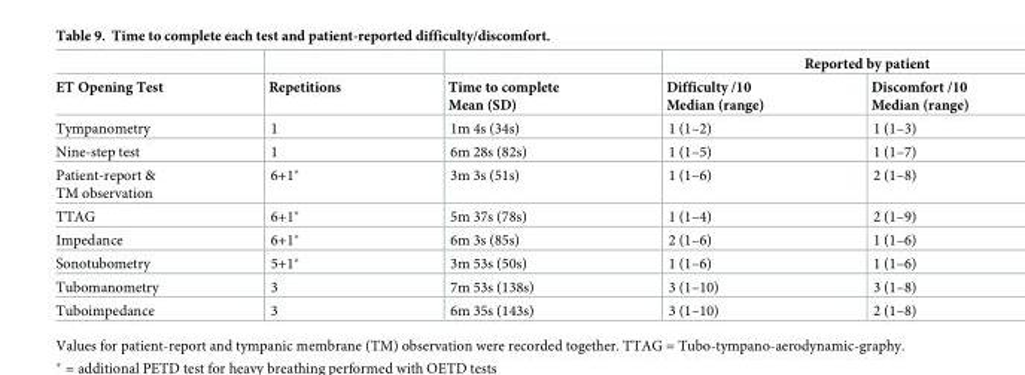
<table><thead><tr><td rowspan="2">ET Opening Test</td><td rowspan="2">Repetitions</td><td rowspan="2">Time to complete Mean (SD)</td><td colspan="2">Reported by patient</td></tr><tr><td>Difficulty /10 Median (range)</td><td>Discomfort /10 Median (range)</td></tr></thead><tbody><tr><td>Tympanometry</td><td>1</td><td>1m 4s (34s)</td><td>1 (1–2)</td><td>1 (1–3)</td></tr><tr><td>Nine-step test</td><td>1</td><td>6m 28s (82s)</td><td>1 (1–5)</td><td>1 (1–7)</td></tr><tr><td>Patient-report &amp; TM observation</td><td>6+1*</td><td>3m 3s (51s)</td><td>1 (1–6)</td><td>2 (1–8)</td></tr><tr><td>TTAG</td><td>6+1*</td><td>5m 37s (78s)</td><td>1 (1–4)</td><td>2 (1–9)</td></tr><tr><td>Impedance</td><td>6+1*</td><td>6m 3s (85s)</td><td>2 (1–6)</td><td>1 (1–6)</td></tr><tr><td>Sonotubometry</td><td>5+1*</td><td>3m 53s (50s)</td><td>1 (1–6)</td><td>1 (1–6)</td></tr><tr><td>Tubomanometry</td><td>3</td><td>7m 53s (138s)</td><td>3 (1–10)</td><td>3 (1–8)</td></tr><tr><td>Tuboimpedance</td><td>3</td><td>6m 35s (143s)</td><td>3 (1–10)</td><td>2 (1–8)</td></tr></tbody></table>